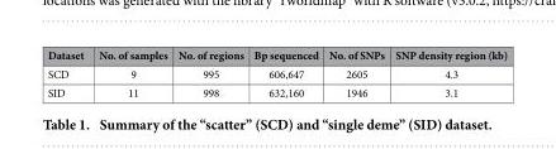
<table><thead><tr><td>Dataset</td><td>No. of samples</td><td>No. of regions</td><td>Bp sequenced</td><td>No. of SNPs</td><td>SNP density region (kb)</td></tr></thead><tbody><tr><td>SCD</td><td>9</td><td>995</td><td>606,647</td><td>2605</td><td>4.3</td></tr><tr><td>SID</td><td>11</td><td>998</td><td>632,160</td><td>1946</td><td>3.1</td></tr></tbody></table>